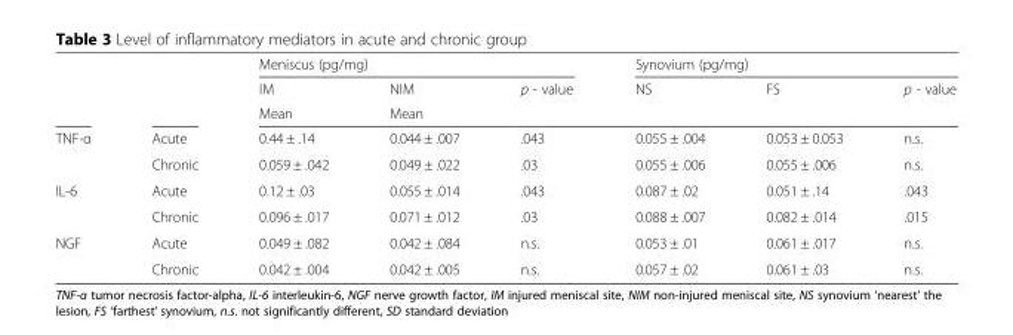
<table><thead><tr><td rowspan="3"></td><td rowspan="3"></td><td colspan="3">Meniscus (pg/mg)</td><td colspan="3">Synovium (pg/mg)</td></tr><tr><td rowspan="2">IM Mean</td><td rowspan="2">NIM Mean</td><td rowspan="2">p - value</td><td rowspan="2">NS</td><td rowspan="2">FS</td><td rowspan="2">p - value</td></tr><tr></tr></thead><tbody><tr><td rowspan="2">TNF-α</td><td>Acute</td><td>0.44 ± .14</td><td>0.044 ± .007</td><td>.043</td><td>0.055 ± .004</td><td>0.053 ± 0.053</td><td>n.s.</td></tr><tr><td>Chronic</td><td>0.059 ± .042</td><td>0.049 ± .022</td><td>.03</td><td>0.055 ± .006</td><td>0.055 ± .006</td><td>n.s.</td></tr><tr><td rowspan="2">IL-6</td><td>Acute</td><td>0.12 ± .03</td><td>0.055 ± .014</td><td>.043</td><td>0.087 ± .02</td><td>0.051 ± .14</td><td>.043</td></tr><tr><td>Chronic</td><td>0.096 ± .017</td><td>0.071 ± .012</td><td>.03</td><td>0.088 ± .007</td><td>0.082 ± .014</td><td>.015</td></tr><tr><td rowspan="2">NGF</td><td>Acute</td><td>0.049 ± .082</td><td>0.042 ± .084</td><td>n.s.</td><td>0.053 ± .01</td><td>0.061 ± .017</td><td>n.s.</td></tr><tr><td>Chronic</td><td>0.042 ± .004</td><td>0.042 ± .005</td><td>n.s.</td><td>0.057 ± .02</td><td>0.061 ± .03</td><td>n.s.</td></tr></tbody></table>